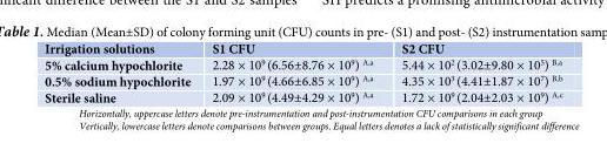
<table><thead><tr><td>Irrigation solutions</td><td>S1 CFU</td><td>S2 CFU</td></tr></thead><tbody><tr><td>5% calcium hypochlorite</td><td>2.28 × 10<sup>9</sup> (6.56±8.76 × 10<sup>9</sup>) <sup>A,a</sup></td><td>5.44 × 10<sup>2</sup> (3.02±9.80 × 10<sup>5</sup>) <sup>B,a</sup></td></tr><tr><td>0.5% sodium hypochlorite</td><td>1.97 × 10<sup>9</sup> (4.66±6.85 × 10<sup>9</sup>) <sup>A,a</sup></td><td>4.35 × 10<sup>3</sup> (4.41±1.87 × 10<sup>7</sup>) <sup>B,b</sup></td></tr><tr><td>Sterile saline</td><td>2.09 × 10<sup>9</sup> (4.49±4.29 × 10<sup>9</sup>) <sup>A,a</sup></td><td>1.72 × 10<sup>9</sup> (2.04±2.03 × 10<sup>9</sup>) <sup>A,c</sup></td></tr></tbody></table>